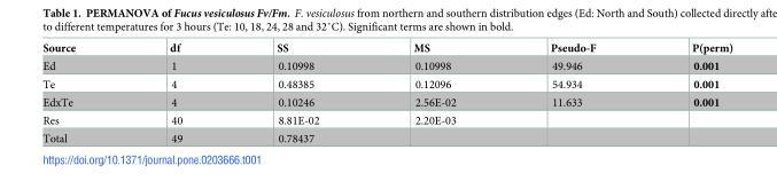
<table><thead><tr><td>Source</td><td>df</td><td>SS</td><td>MS</td><td>Pseudo-F</td><td>P(perm)</td></tr></thead><tbody><tr><td>Ed</td><td>1</td><td>0.10998</td><td>0.10998</td><td>49.946</td><td>0.001</td></tr><tr><td>Te</td><td>4</td><td>0.48385</td><td>0.12096</td><td>54.934</td><td>0.001</td></tr><tr><td>EdxTe</td><td>4</td><td>0.10246</td><td>2.56E-02</td><td>11.633</td><td>0.001</td></tr><tr><td>Res</td><td>40</td><td>8.81E-02</td><td>2.20E-03</td><td></td><td></td></tr><tr><td>Total</td><td>49</td><td>0.78437</td><td></td><td></td><td></td></tr></tbody></table>